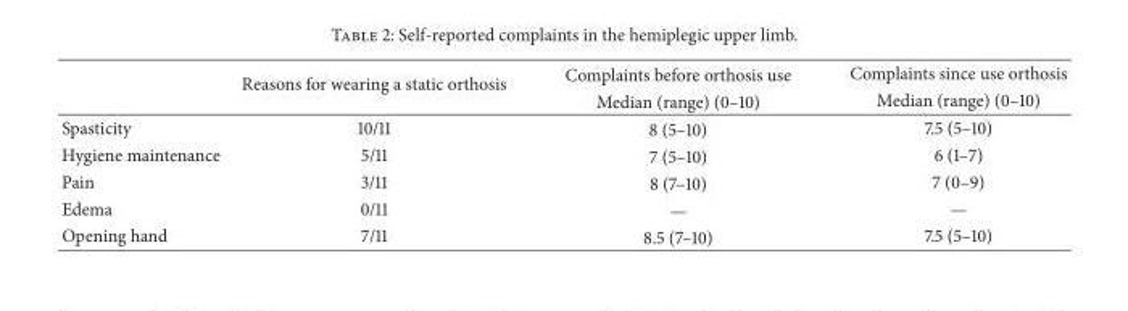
<table><thead><tr><td rowspan="2"></td><td rowspan="2">Reasons for wearing a static orthosis</td><td rowspan="2">Complaints before orthosis use Median (range) (0–10)</td><td rowspan="2">Complaints since use orthosis Median (range) (0–10)</td></tr><tr></tr></thead><tbody><tr><td>Spasticity</td><td>10/11</td><td>8 (5–10)</td><td>7.5 (5–10)</td></tr><tr><td>Hygiene maintenance</td><td>5/11</td><td>7 (5–10)</td><td>6 (1–7)</td></tr><tr><td>Pain</td><td>3/11</td><td>8 (7–10)</td><td>7 (0–9)</td></tr><tr><td>Edema</td><td>0/11</td><td>—</td><td>—</td></tr><tr><td>Opening hand</td><td>7/11</td><td>8.5 (7–10)</td><td>7.5 (5–10)</td></tr></tbody></table>